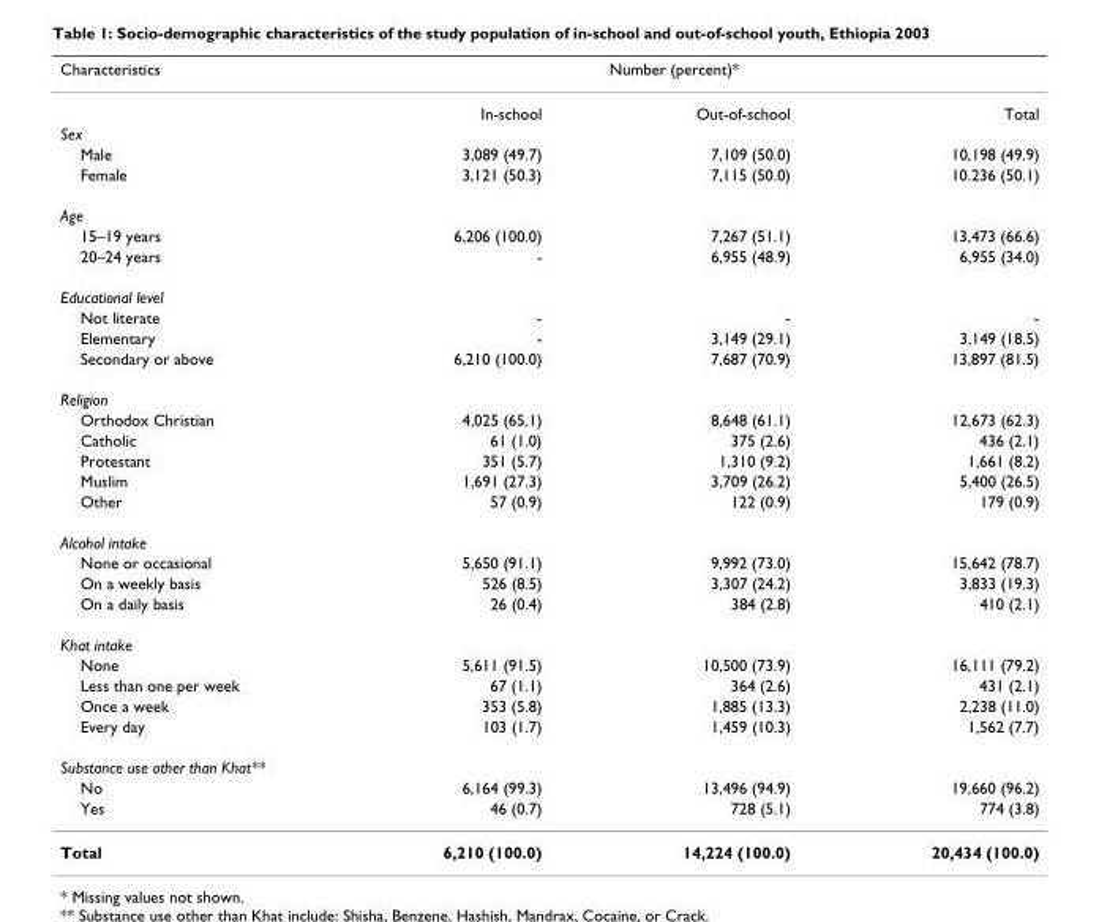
<table><thead><tr><td rowspan="2">Characteristics</td><td colspan="3">Number (percent)*</td></tr><tr><td>In-school</td><td>Out-of-school</td><td>Total</td></tr></thead><tbody><tr><td colspan="4">Sex</td></tr><tr><td>Male</td><td>3,089 (49.7)</td><td>7,109 (50.0)</td><td>10,198 (49.9)</td></tr><tr><td>Female</td><td>3,121 (50.3)</td><td>7,115 (50.0)</td><td>10.236 (50.1)</td></tr><tr><td colspan="4">Age</td></tr><tr><td>15–19 years</td><td>6,206 (100.0)</td><td>7,267 (51.1)</td><td>13,473 (66.6)</td></tr><tr><td>20–24 years</td><td>-</td><td>6,955 (48.9)</td><td>6,955 (34.0)</td></tr><tr><td colspan="4">Educational level</td></tr><tr><td>Not literate</td><td>-</td><td>-</td><td>-</td></tr><tr><td>Elementary</td><td>-</td><td>3,149 (29.1)</td><td>3,149 (18.5)</td></tr><tr><td>Secondary or above</td><td>6,210 (100.0)</td><td>7,687 (70.9)</td><td>13,897 (81.5)</td></tr><tr><td colspan="4">Religion</td></tr><tr><td>Orthodox Christian</td><td>4,025 (65.1)</td><td>8,648 (61.1)</td><td>12,673 (62.3)</td></tr><tr><td>Catholic</td><td>61 (1.0)</td><td>375 (2.6)</td><td>436 (2.1)</td></tr><tr><td>Protestant</td><td>351 (5.7)</td><td>1,310 (9.2)</td><td>1,661 (8.2)</td></tr><tr><td>Muslim</td><td>1,691 (27.3)</td><td>3,709 (26.2)</td><td>5,400 (26.5)</td></tr><tr><td>Other</td><td>57 (0.9)</td><td>122 (0.9)</td><td>179 (0.9)</td></tr><tr><td colspan="4">Alcohol intake</td></tr><tr><td>None or occasional</td><td>5,650 (91.1)</td><td>9,992 (73.0)</td><td>15,642 (78.7)</td></tr><tr><td>On a weekly basis</td><td>526 (8.5)</td><td>3,307 (24.2)</td><td>3,833 (19.3)</td></tr><tr><td>On a daily basis</td><td>26 (0.4)</td><td>384 (2.8)</td><td>410 (2.1)</td></tr><tr><td colspan="4">Khat intake</td></tr><tr><td>None</td><td>5,611 (91.5)</td><td>10,500 (73.9)</td><td>16,111 (79.2)</td></tr><tr><td>Less than one per week</td><td>67 (1.1)</td><td>364 (2.6)</td><td>431 (2.1)</td></tr><tr><td>Once a week</td><td>353 (5.8)</td><td>1,885 (13.3)</td><td>2,238 (11.0)</td></tr><tr><td>Every day</td><td>103 (1.7)</td><td>1,459 (10.3)</td><td>1,562 (7.7)</td></tr><tr><td colspan="4">Substance use other than Khat**</td></tr><tr><td>No</td><td>6,164 (99.3)</td><td>13,496 (94.9)</td><td>19,660 (96.2)</td></tr><tr><td>Yes</td><td>46 (0.7)</td><td>728 (5.1)</td><td>774 (3.8)</td></tr><tr><td>Total</td><td>6,210 (100.0)</td><td>14,224 (100.0)</td><td>20,434 (100.0)</td></tr></tbody></table>